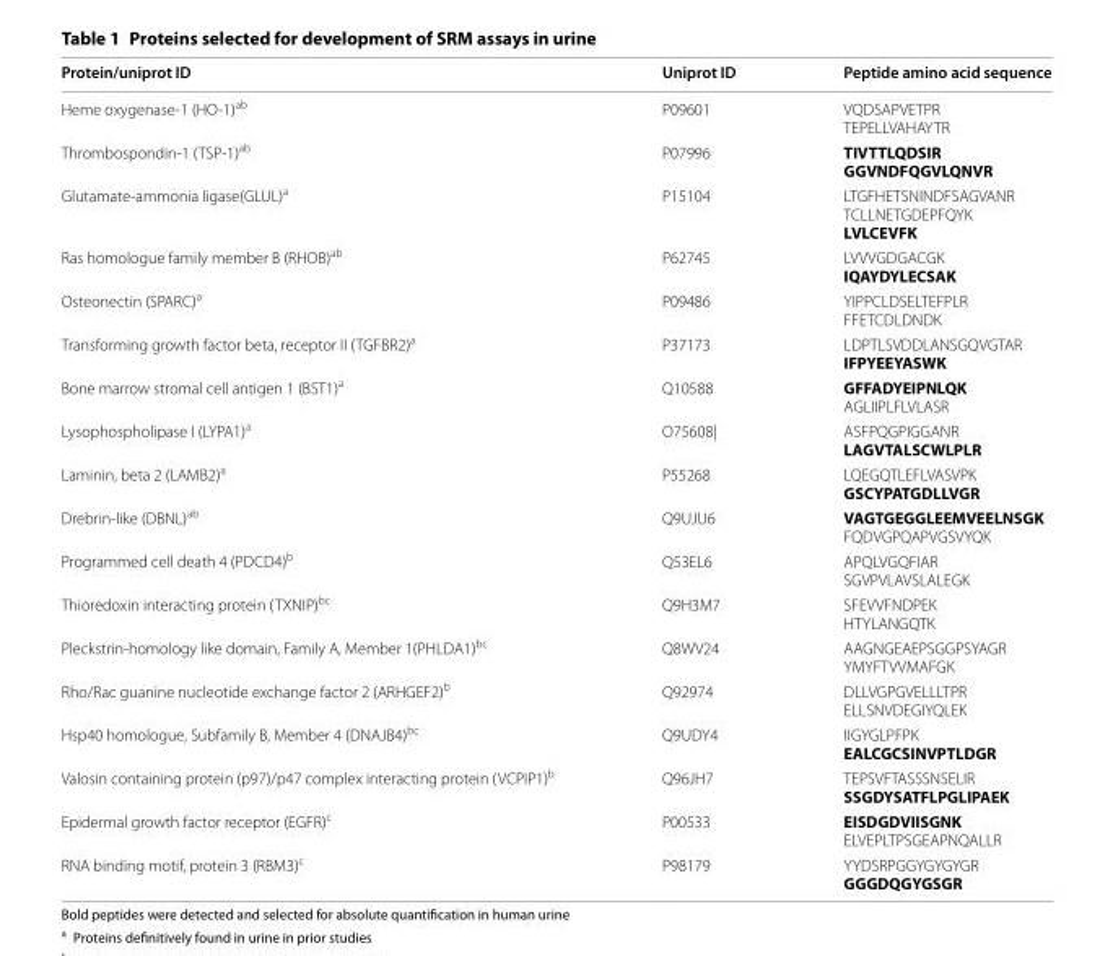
<table><thead><tr><td>Protein/uniprot ID</td><td>Uniprot ID</td><td>Peptide amino acid sequence</td></tr></thead><tbody><tr><td>Heme oxygenase-1 (HO-1)<sup>ab</sup></td><td>P09601</td><td>VQDSAPVETPR TEPELLVAHAYTR</td></tr><tr><td>Thrombospondin-1 (TSP-1)<sup>ab</sup></td><td>P07996</td><td>TIVTTLQDSIR GGVNDFQGVLQNVR</td></tr><tr><td>Glutamate-ammonia ligase(GLUL)<sup>a</sup></td><td>P15104</td><td>LTGFHETSNINDFSAGVANR TCLLNETGDEPFQYK LVLCEVFK</td></tr><tr><td>Ras homologue family member B (RHOB)<sup>ab</sup></td><td>P62745</td><td>LVVVGDGACGK IQAYDYLECSAK</td></tr><tr><td>Osteonectin (SPARC)<sup>a</sup></td><td>P09486</td><td>YIPPCLDSELTEFPLR FFETCDLDNDK</td></tr><tr><td>Transforming growth factor beta, receptor II (TGFBR2)<sup>a</sup></td><td>P37173</td><td>LDPTLSVDDLANSGQVGTAR IFPYEEYASWK</td></tr><tr><td>Bone marrow stromal cell antigen 1 (BST1)<sup>a</sup></td><td>Q10588</td><td>GFFADYEIPNLQK AGLIIPLFLVLASR</td></tr><tr><td>Lysophospholipase I (LYPA1)<sup>a</sup></td><td>O75608|</td><td>ASFPQGPIGGANR LAGVTALSCWLPLR</td></tr><tr><td>Laminin, beta 2 (LAMB2)<sup>a</sup></td><td>P55268</td><td>LQEGQTLEFLVASVPK GSCYPATGDLLVGR</td></tr><tr><td>Drebrin-like (DBNL)<sup>ab</sup></td><td>Q9UJU6</td><td>VAGTGEGGLEEMVEELNSGK FQDVGPQAPVGSVYQK</td></tr><tr><td>Programmed cell death 4 (PDCD4)<sup>b</sup></td><td>Q53EL6</td><td>APQLVGQFIAR SGVPVLAVSLALEGK</td></tr><tr><td>Thioredoxin interacting protein (TXNIP)<sup>bc</sup></td><td>Q9H3M7</td><td>SFEVVFNDPEK HTYLANGQTK</td></tr><tr><td>Pleckstrin-homology like domain, Family A, Member 1(PHLDA1)<sup>bc</sup></td><td>Q8WV24</td><td>AAGNGEAEPSGGPSYAGR YMYFTVVMAFGK</td></tr><tr><td>Rho/Rac guanine nucleotide exchange factor 2 (ARHGEF2)<sup>b</sup></td><td>Q92974</td><td>DLLVGPGVELLLTPR ELLSNVDEGIYQLEK</td></tr><tr><td>Hsp40 homologue, Subfamily B, Member 4 (DNAJB4)<sup>bc</sup></td><td>Q9UDY4</td><td>IIGYGLPFPK EALCGCSINVPTLDGR</td></tr><tr><td>Valosin containing protein (p97)/p47 complex interacting protein (VCPIP1)<sup>b</sup></td><td>Q96JH7</td><td>TEPSVFTASSSNSELIR SSGDYSATFLPGLIPAEK</td></tr><tr><td>Epidermal growth factor receptor (EGFR)<sup>c</sup></td><td>P00533</td><td>EISDGDVIISGNK ELVEPLTPSGEAPNQALLR</td></tr><tr><td>RNA binding motif, protein 3 (RBM3)<sup>c</sup></td><td>P98179</td><td>YYDSRPGGYGYGYGR GGGDQGYGSGR</td></tr></tbody></table>